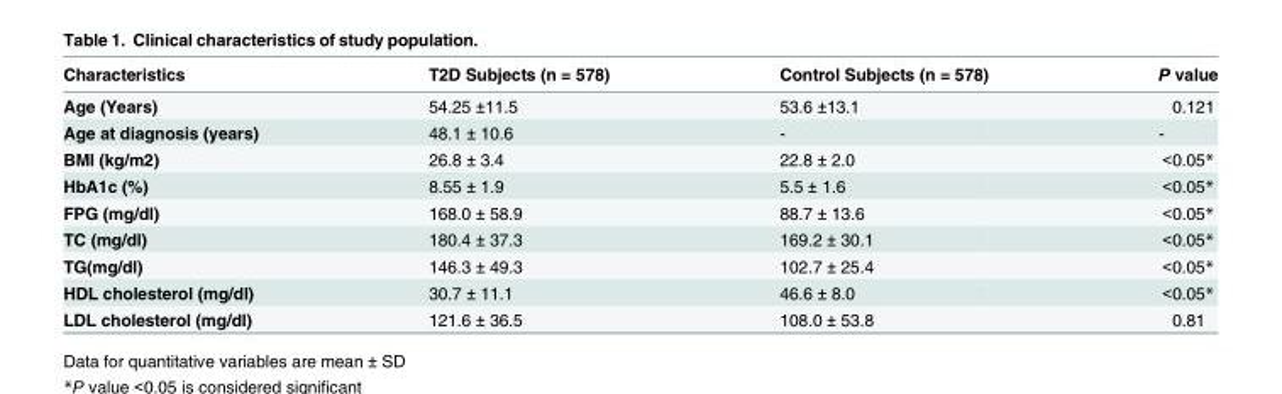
<table><thead><tr><td>Characteristics</td><td>T2D Subjects (n = 578)</td><td>Control Subjects (n = 578)</td><td>P value</td></tr></thead><tbody><tr><td>Age (Years)</td><td>54.25 ±11.5</td><td>53.6 ±13.1</td><td>0.121</td></tr><tr><td>Age at diagnosis (years)</td><td>48.1 ± 10.6</td><td>-</td><td>-</td></tr><tr><td>BMI (kg/m2)</td><td>26.8 ± 3.4</td><td>22.8 ± 2.0</td><td>&lt;0.05*</td></tr><tr><td>HbA1c (%)</td><td>8.55 ± 1.9</td><td>5.5 ± 1.6</td><td>&lt;0.05*</td></tr><tr><td>FPG (mg/dl)</td><td>168.0 ± 58.9</td><td>88.7 ± 13.6</td><td>&lt;0.05*</td></tr><tr><td>TC (mg/dl)</td><td>180.4 ± 37.3</td><td>169.2 ± 30.1</td><td>&lt;0.05*</td></tr><tr><td>TG(mg/dl)</td><td>146.3 ± 49.3</td><td>102.7 ± 25.4</td><td>&lt;0.05*</td></tr><tr><td>HDL cholesterol (mg/dl)</td><td>30.7 ± 11.1</td><td>46.6 ± 8.0</td><td>&lt;0.05*</td></tr><tr><td>LDL cholesterol (mg/dl)</td><td>121.6 ± 36.5</td><td>108.0 ± 53.8</td><td>0.81</td></tr></tbody></table>